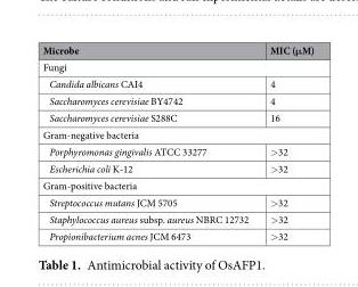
<table><thead><tr><td>Microbe</td><td>MIC (μM)</td></tr></thead><tbody><tr><td colspan="2">Fungi</td></tr><tr><td>Candida albicans CAI4</td><td>4</td></tr><tr><td>Saccharomyces cerevisiae BY4742</td><td>4</td></tr><tr><td>Saccharomyces cerevisiae S288C</td><td>16</td></tr><tr><td colspan="2">Gram-negative bacteria</td></tr><tr><td>Porphyromonas gingivalis ATCC 33277</td><td>&gt;32</td></tr><tr><td>Escherichia coli K-12</td><td>&gt;32</td></tr><tr><td colspan="2">Gram-positive bacteria</td></tr><tr><td>Streptococcus mutans JCM 5705</td><td>&gt;32</td></tr><tr><td>Staphylococcus aureus subsp. aureus NBRC 12732</td><td>&gt;32</td></tr><tr><td>Propionibacterium acnes JCM 6473</td><td>&gt;32</td></tr></tbody></table>